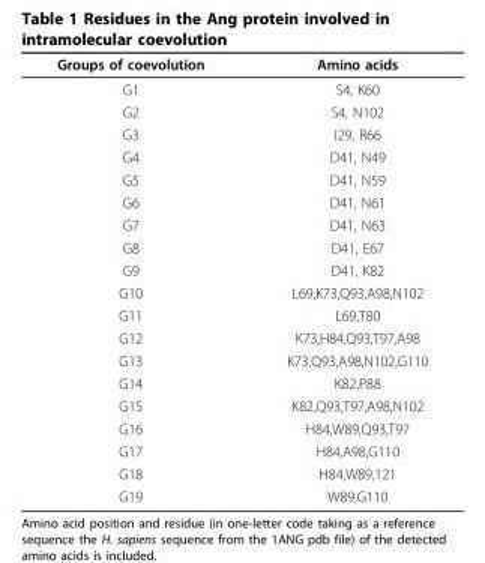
<table><thead><tr><td>Groups of coevolution</td><td>Amino acids</td></tr></thead><tbody><tr><td>G1</td><td>S4, K60</td></tr><tr><td>G2</td><td>S4, N102</td></tr><tr><td>G3</td><td>I29, R66</td></tr><tr><td>G4</td><td>D41, N49</td></tr><tr><td>G5</td><td>D41, N59</td></tr><tr><td>G6</td><td>D41, N61</td></tr><tr><td>G7</td><td>D41, N63</td></tr><tr><td>G8</td><td>D41, E67</td></tr><tr><td>G9</td><td>D41, K82</td></tr><tr><td>G10</td><td>L69,K73,Q93,A98,N102</td></tr><tr><td>G11</td><td>L69,T80</td></tr><tr><td>G12</td><td>K73,H84,Q93,T97,A98</td></tr><tr><td>G13</td><td>K73,Q93,A98,N102,G110</td></tr><tr><td>G14</td><td>K82,P88</td></tr><tr><td>G15</td><td>K82,Q93,T97,A98,N102</td></tr><tr><td>G16</td><td>H84,W89,Q93,T97</td></tr><tr><td>G17</td><td>H84,A98,G110</td></tr><tr><td>G18</td><td>H84,W89,121</td></tr><tr><td>G19</td><td>W89,G110</td></tr></tbody></table>